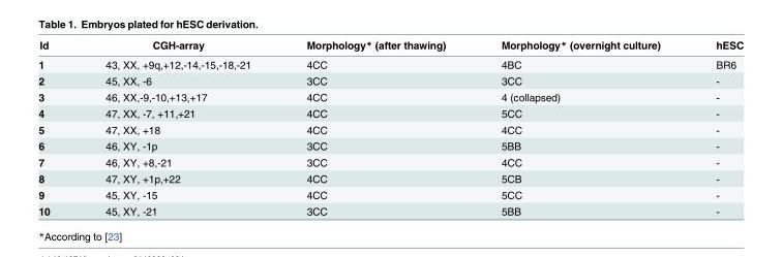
<table><thead><tr><td>Id</td><td>CGH-array</td><td>Morphology* (after thawing)</td><td>Morphology* (overnight culture)</td><td>hESC</td></tr></thead><tbody><tr><td>1</td><td>43, XX, +9q,+12,-14,-15,-18,-21</td><td>4CC</td><td>4BC</td><td>BR6</td></tr><tr><td>2</td><td>45, XX, -6</td><td>3CC</td><td>3CC</td><td>-</td></tr><tr><td>3</td><td>46, XX,-9,-10,+13,+17</td><td>4CC</td><td>4 (collapsed)</td><td>-</td></tr><tr><td>4</td><td>47, XX, -7, +11,+21</td><td>4CC</td><td>5CC</td><td>-</td></tr><tr><td>5</td><td>47, XX, +18</td><td>4CC</td><td>4CC</td><td>-</td></tr><tr><td>6</td><td>46, XY, -1p</td><td>3CC</td><td>5BB</td><td>-</td></tr><tr><td>7</td><td>46, XY, +8,-21</td><td>3CC</td><td>4CC</td><td>-</td></tr><tr><td>8</td><td>47, XY, +1p,+22</td><td>4CC</td><td>5CB</td><td>-</td></tr><tr><td>9</td><td>45, XY, -15</td><td>4CC</td><td>5CC</td><td>-</td></tr><tr><td>10</td><td>45, XY, -21</td><td>3CC</td><td>5BB</td><td>-</td></tr></tbody></table>